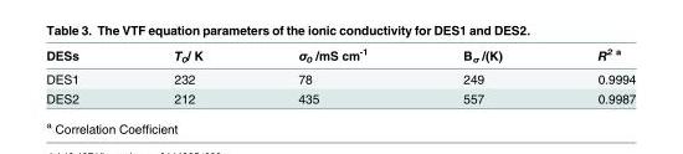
<table><thead><tr><td>DESs</td><td>T<sub>0</sub>/ K</td><td>σ<sub>0</sub> /mS cm<sup>-1</sup></td><td>B<sub>σ</sub> /(K)</td><td>R<sup>2 a</sup></td></tr></thead><tbody><tr><td>DES1</td><td>232</td><td>78</td><td>249</td><td>0.9994</td></tr><tr><td>DES2</td><td>212</td><td>435</td><td>557</td><td>0.9987</td></tr></tbody></table>